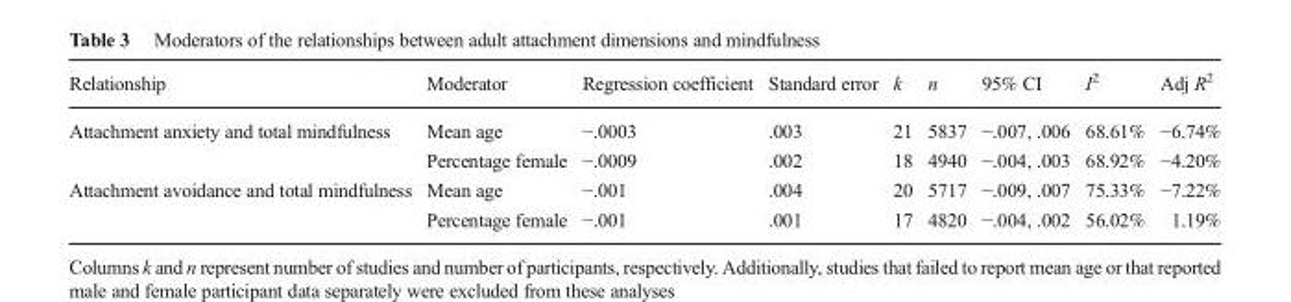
<table><thead><tr><td>Relationship</td><td>Moderator</td><td>Regression coefficient</td><td>Standard error</td><td>k</td><td>n</td><td>95% CI</td><td>I<sup>2</sup></td><td>Adj R<sup>2</sup></td></tr></thead><tbody><tr><td rowspan="2">Attachment anxiety and total mindfulness</td><td>Mean age</td><td>−.0003</td><td>.003</td><td>21</td><td>5837</td><td>−.007, .006</td><td>68.61%</td><td>−6.74%</td></tr><tr><td>Percentage female</td><td>−.0009</td><td>.002</td><td>18</td><td>4940</td><td>−.004, .003</td><td>68.92%</td><td>−4.20%</td></tr><tr><td rowspan="2">Attachment avoidance and total mindfulness</td><td>Mean age</td><td>−.001</td><td>.004</td><td>20</td><td>5717</td><td>−.009, .007</td><td>75.33%</td><td>−7.22%</td></tr><tr><td>Percentage female</td><td>−.001</td><td>.001</td><td>17</td><td>4820</td><td>−.004, .002</td><td>56.02%</td><td>1.19%</td></tr></tbody></table>